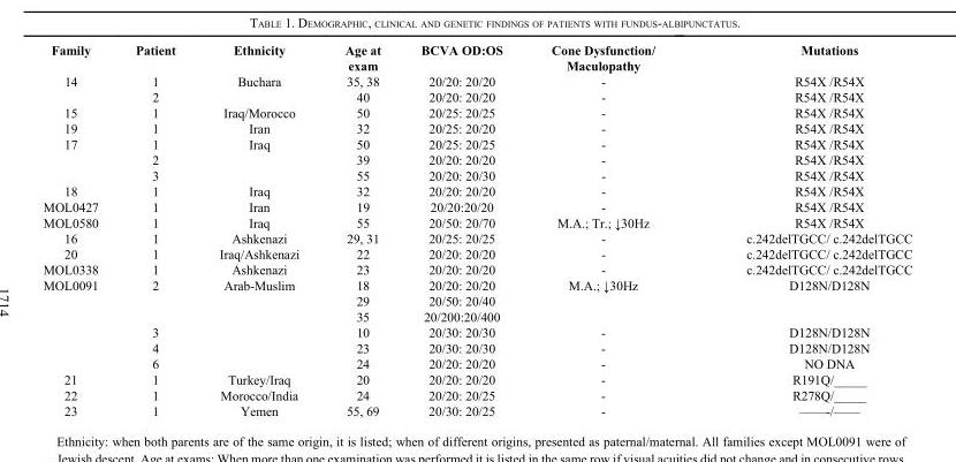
<table><thead><tr><td>Family</td><td>Patient</td><td>Ethnicity</td><td>Age at exam</td><td>BCVA OD:OS</td><td>Cone Dysfunction/ Maculopathy</td><td>Mutations</td></tr></thead><tbody><tr><td rowspan="2">14</td><td>1</td><td>Buchara</td><td>35, 38</td><td>20/20: 20/20</td><td>-</td><td>R54X /R54X</td></tr><tr><td>2</td><td></td><td>40</td><td>20/20: 20/20</td><td>-</td><td>R54X /R54X</td></tr><tr><td>15</td><td>1</td><td>Iraq/Morocco</td><td>50</td><td>20/25: 20/25</td><td>-</td><td>R54X /R54X</td></tr><tr><td>19</td><td>1</td><td>Iran</td><td>32</td><td>20/25: 20/20</td><td>-</td><td>R54X /R54X</td></tr><tr><td rowspan="3">17</td><td>1</td><td>Iraq</td><td>50</td><td>20/25: 20/25</td><td>-</td><td>R54X /R54X</td></tr><tr><td>2</td><td></td><td>39</td><td>20/20: 20/20</td><td>-</td><td>R54X /R54X</td></tr><tr><td>3</td><td></td><td>55</td><td>20/20: 20/30</td><td>-</td><td>R54X /R54X</td></tr><tr><td>18</td><td>1</td><td>Iraq</td><td>32</td><td>20/20: 20/20</td><td>-</td><td>R54X /R54X</td></tr><tr><td>MOL0427</td><td>1</td><td>Iran</td><td>19</td><td>20/20:20/20</td><td>-</td><td>R54X /R54X</td></tr><tr><td>MOL0580</td><td>1</td><td>Iraq</td><td>55</td><td>20/50: 20/70</td><td>M.A.; Tr.; ↓30Hz</td><td>R54X /R54X</td></tr><tr><td>16</td><td>1</td><td>Ashkenazi</td><td>29, 31</td><td>20/25: 20/25</td><td>-</td><td>c.242delTGCC/ c.242delTGCC</td></tr><tr><td>20</td><td>1</td><td>Iraq/Ashkenazi</td><td>22</td><td>20/20: 20/20</td><td>-</td><td>c.242delTGCC/ c.242delTGCC</td></tr><tr><td>MOL0338</td><td>1</td><td>Ashkenazi</td><td>23</td><td>20/20: 20/20</td><td>-</td><td>c.242delTGCC/ c.242delTGCC</td></tr><tr><td rowspan="6">MOL0091</td><td>2</td><td>Arab-Muslim</td><td>18</td><td>20/20: 20/20</td><td>M.A.; ↓30Hz</td><td>D128N/D128N</td></tr><tr><td></td><td></td><td>29</td><td>20/50: 20/40</td><td></td><td></td></tr><tr><td></td><td></td><td>35</td><td>20/200:20/400</td><td></td><td></td></tr><tr><td>3</td><td></td><td>10</td><td>20/30: 20/30</td><td>-</td><td>D128N/D128N</td></tr><tr><td>4</td><td></td><td>23</td><td>20/30: 20/30</td><td>-</td><td>D128N/D128N</td></tr><tr><td>6</td><td></td><td>24</td><td>20/20: 20/20</td><td>-</td><td>NO DNA</td></tr><tr><td>21</td><td>1</td><td>Turkey/Iraq</td><td>20</td><td>20/20: 20/20</td><td>-</td><td>R191Q/_____</td></tr><tr><td>22</td><td>1</td><td>Morocco/India</td><td>24</td><td>20/20: 20/25</td><td>-</td><td>R278Q/_____</td></tr><tr><td>23</td><td>1</td><td>Yemen</td><td>55, 69</td><td>20/30: 20/25</td><td>-</td><td>——-/——</td></tr></tbody></table>